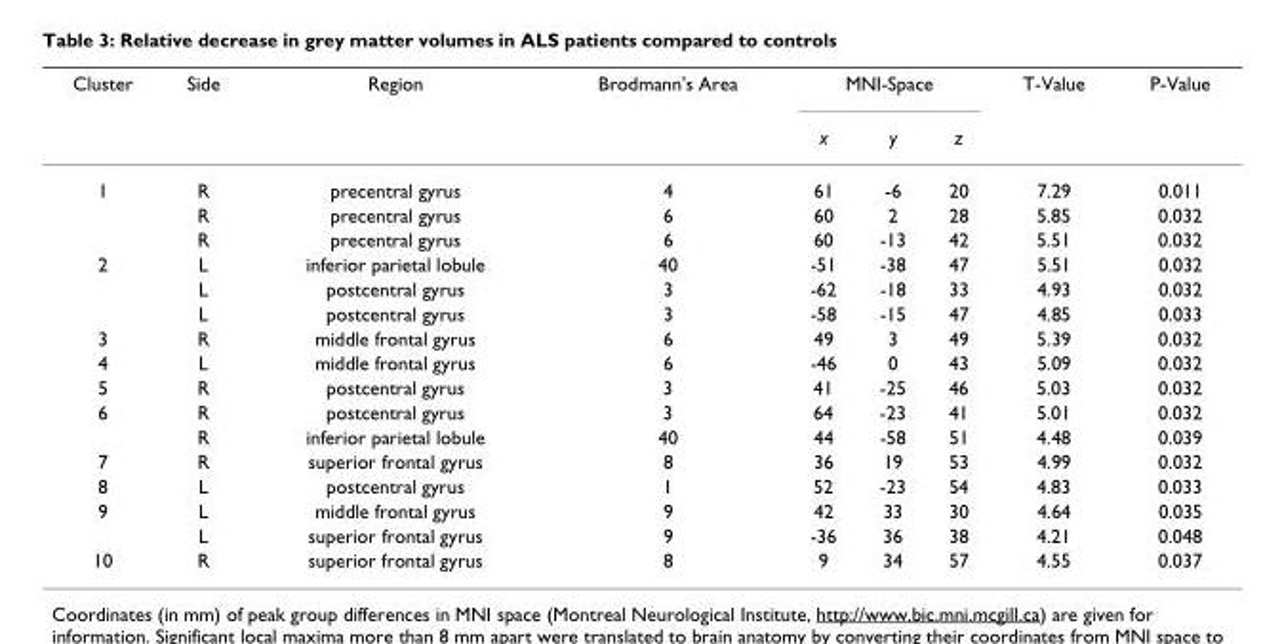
<table><thead><tr><td rowspan="2">Cluster</td><td rowspan="2">Side</td><td rowspan="2">Region</td><td rowspan="2">Brodmann&#x27;s Area</td><td colspan="3">MNI-Space</td><td rowspan="2">T-Value</td><td rowspan="2">P-Value</td></tr><tr><td>x</td><td>y</td><td>z</td></tr></thead><tbody><tr><td rowspan="3">1</td><td>R</td><td>precentral gyrus</td><td>4</td><td>61</td><td>-6</td><td>20</td><td>7.29</td><td>0.011</td></tr><tr><td>R</td><td>precentral gyrus</td><td>6</td><td>60</td><td>2</td><td>28</td><td>5.85</td><td>0.032</td></tr><tr><td>R</td><td>precentral gyrus</td><td>6</td><td>60</td><td>-13</td><td>42</td><td>5.51</td><td>0.032</td></tr><tr><td rowspan="3">2</td><td>L</td><td>inferior parietal lobule</td><td>40</td><td>-51</td><td>-38</td><td>47</td><td>5.51</td><td>0.032</td></tr><tr><td>L</td><td>postcentral gyrus</td><td>3</td><td>-62</td><td>-18</td><td>33</td><td>4.93</td><td>0.032</td></tr><tr><td>L</td><td>postcentral gyrus</td><td>3</td><td>-58</td><td>-15</td><td>47</td><td>4.85</td><td>0.033</td></tr><tr><td>3</td><td>R</td><td>middle frontal gyrus</td><td>6</td><td>49</td><td>3</td><td>49</td><td>5.39</td><td>0.032</td></tr><tr><td>4</td><td>L</td><td>middle frontal gyrus</td><td>6</td><td>-46</td><td>0</td><td>43</td><td>5.09</td><td>0.032</td></tr><tr><td>5</td><td>R</td><td>postcentral gyrus</td><td>3</td><td>41</td><td>-25</td><td>46</td><td>5.03</td><td>0.032</td></tr><tr><td rowspan="2">6</td><td>R</td><td>postcentral gyrus</td><td>3</td><td>64</td><td>-23</td><td>41</td><td>5.01</td><td>0.032</td></tr><tr><td>R</td><td>inferior parietal lobule</td><td>40</td><td>44</td><td>-58</td><td>51</td><td>4.48</td><td>0.039</td></tr><tr><td>7</td><td>R</td><td>superior frontal gyrus</td><td>8</td><td>36</td><td>19</td><td>53</td><td>4.99</td><td>0.032</td></tr><tr><td>8</td><td>L</td><td>postcentral gyrus</td><td>1</td><td>52</td><td>-23</td><td>54</td><td>4.83</td><td>0.033</td></tr><tr><td rowspan="2">9</td><td>L</td><td>middle frontal gyrus</td><td>9</td><td>42</td><td>33</td><td>30</td><td>4.64</td><td>0.035</td></tr><tr><td>L</td><td>superior frontal gyrus</td><td>9</td><td>-36</td><td>36</td><td>38</td><td>4.21</td><td>0.048</td></tr><tr><td>10</td><td>R</td><td>superior frontal gyrus</td><td>8</td><td>9</td><td>34</td><td>57</td><td>4.55</td><td>0.037</td></tr></tbody></table>